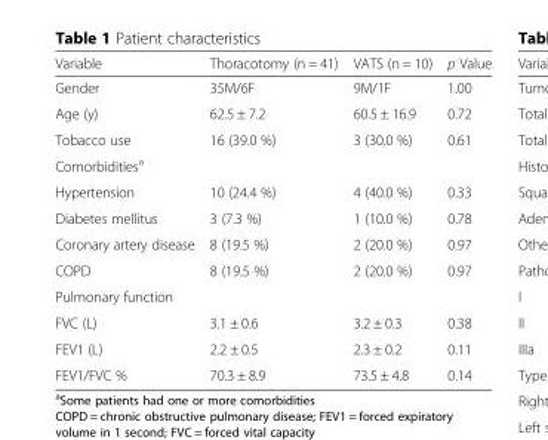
<table><thead><tr><td>Variable</td><td>Thoracotomy (n = 41)</td><td>VATS (n = 10)</td><td>p Value</td></tr></thead><tbody><tr><td>Gender</td><td>35M/6F</td><td>9M/1F</td><td>1.00</td></tr><tr><td>Age (y)</td><td>62.5 ± 7.2</td><td>60.5 ± 16.9</td><td>0.72</td></tr><tr><td>Tobacco use</td><td>16 (39.0 %)</td><td>3 (30.0 %)</td><td>0.61</td></tr><tr><td colspan="4">Comorbidities<sup>a</sup></td></tr><tr><td>Hypertension</td><td>10 (24.4 %)</td><td>4 (40.0 %)</td><td>0.33</td></tr><tr><td>Diabetes mellitus</td><td>3 (7.3 %)</td><td>1 (10.0 %)</td><td>0.78</td></tr><tr><td>Coronary artery disease</td><td>8 (19.5 %)</td><td>2 (20.0 %)</td><td>0.97</td></tr><tr><td>COPD</td><td>8 (19.5 %)</td><td>2 (20.0 %)</td><td>0.97</td></tr><tr><td colspan="4">Pulmonary function</td></tr><tr><td>FVC (L)</td><td>3.1 ± 0.6</td><td>3.2 ± 0.3</td><td>0.38</td></tr><tr><td>FEV1 (L)</td><td>2.2 ± 0.5</td><td>2.3 ± 0.2</td><td>0.11</td></tr><tr><td>FEV1/FVC %</td><td>70.3 ± 8.9</td><td>73.5 ± 4.8</td><td>0.14</td></tr></tbody></table>